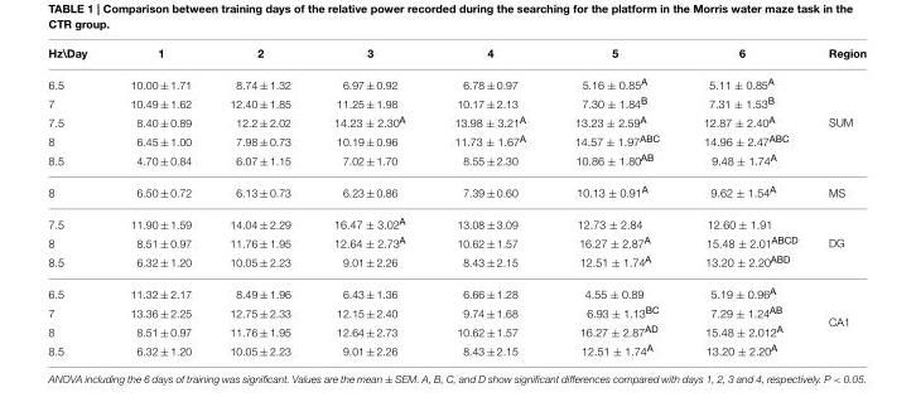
<table><thead><tr><td>Hz\Day</td><td>1</td><td>2</td><td>3</td><td>4</td><td>5</td><td>6</td><td>Region</td></tr></thead><tbody><tr><td>6.5</td><td>10.00 ± 1.71</td><td>8.74 ± 1.32</td><td>6.97 ± 0.92</td><td>6.78 ± 0.97</td><td>5.16 ± 0.85<sup>A</sup></td><td>5.11 ± 0.85<sup>A</sup></td><td rowspan="5">SUM</td></tr><tr><td>7</td><td>10.49 ± 1.62</td><td>12.40 ± 1.85</td><td>11.25 ± 1.98</td><td>10.17 ± 2.13</td><td>7.30 ± 1.84<sup>B</sup></td><td>7.31 ± 1.53<sup>B</sup></td></tr><tr><td>7.5</td><td>8.40 ± 0.89</td><td>12.2 ± 2.02</td><td>14.23 ± 2.30<sup>A</sup></td><td>13.98 ± 3.21<sup>A</sup></td><td>13.23 ± 2.59<sup>A</sup></td><td>12.87 ± 2.40<sup>A</sup></td></tr><tr><td>8</td><td>6.45 ± 1.00</td><td>7.98 ± 0.73</td><td>10.19 ± 0.96</td><td>11.73 ± 1.67<sup>A</sup></td><td>14.57 ± 1.97<sup>ABC</sup></td><td>14.96 ± 2.47<sup>ABC</sup></td></tr><tr><td>8.5</td><td>4.70 ± 0.84</td><td>6.07 ± 1.15</td><td>7.02 ± 1.70</td><td>8.55 ± 2.30</td><td>10.86 ± 1.80<sup>AB</sup></td><td>9.48 ± 1.74<sup>A</sup></td></tr><tr><td>8</td><td>6.50 ± 0.72</td><td>6.13 ± 0.73</td><td>6.23 ± 0.86</td><td>7.39 ± 0.60</td><td>10.13 ± 0.91<sup>A</sup></td><td>9.62 ± 1.54<sup>A</sup></td><td>MS</td></tr><tr><td>7.5</td><td>11.90 ± 1.59</td><td>14.04 ± 2.29</td><td>16.47 ± 3.02<sup>A</sup></td><td>13.08 ± 3.09</td><td>12.73 ± 2.84</td><td>12.60 ± 1.91</td><td rowspan="3">DG</td></tr><tr><td>8</td><td>8.51 ± 0.97</td><td>11.76 ± 1.95</td><td>12.64 ± 2.73<sup>A</sup></td><td>10.62 ± 1.57</td><td>16.27 ± 2.87<sup>A</sup></td><td>15.48 ± 2.01<sup>ABCD</sup></td></tr><tr><td>8.5</td><td>6.32 ± 1.20</td><td>10.05 ± 2.23</td><td>9.01 ± 2.26</td><td>8.43 ± 2.15</td><td>12.51 ± 1.74<sup>A</sup></td><td>13.20 ± 2.20<sup>ABD</sup></td></tr><tr><td>6.5</td><td>11.32 ± 2.17</td><td>8.49 ± 1.96</td><td>6.43 ± 1.36</td><td>6.66 ± 1.28</td><td>4.55 ± 0.89</td><td>5.19 ± 0.96<sup>A</sup></td><td rowspan="4">CA1</td></tr><tr><td>7</td><td>13.36 ± 2.25</td><td>12.75 ± 2.33</td><td>12.15 ± 2.40</td><td>9.74 ± 1.68</td><td>6.93 ± 1.13<sup>BC</sup></td><td>7.29 ± 1.24<sup>AB</sup></td></tr><tr><td>8</td><td>8.51 ± 0.97</td><td>11.76 ± 1.95</td><td>12.64 ± 2.73</td><td>10.62 ± 1.57</td><td>16.27 ± 2.87<sup>AD</sup></td><td>15.48 ± 2.012<sup>A</sup></td></tr><tr><td>8.5</td><td>6.32 ± 1.20</td><td>10.05 ± 2.23</td><td>9.01 ± 2.26</td><td>8.43 ± 2.15</td><td>12.51 ± 1.74<sup>A</sup></td><td>13.20 ± 2.20<sup>A</sup></td></tr></tbody></table>